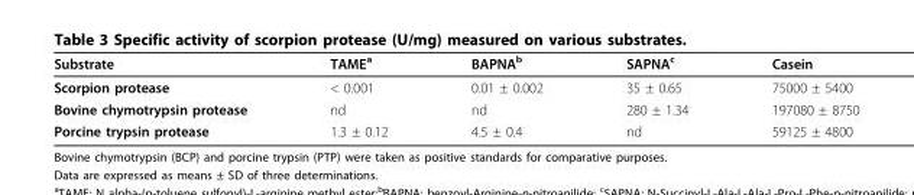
<table><thead><tr><td>Substrate</td><td>TAME<sup>a</sup></td><td>BAPNA<sup>b</sup></td><td>SAPNA<sup>c</sup></td><td>Casein</td></tr></thead><tbody><tr><td>Scorpion protease</td><td>&lt; 0.001</td><td>0.01 ± 0.002</td><td>35 ± 0.65</td><td>75000 ± 5400</td></tr><tr><td>Bovine chymotrypsin protease</td><td>nd</td><td>nd</td><td>280 ± 1.34</td><td>197080 ± 8750</td></tr><tr><td>Porcine trypsin protease</td><td>1.3 ± 0.12</td><td>4.5 ± 0.4</td><td>nd</td><td>59125 ± 4800</td></tr></tbody></table>